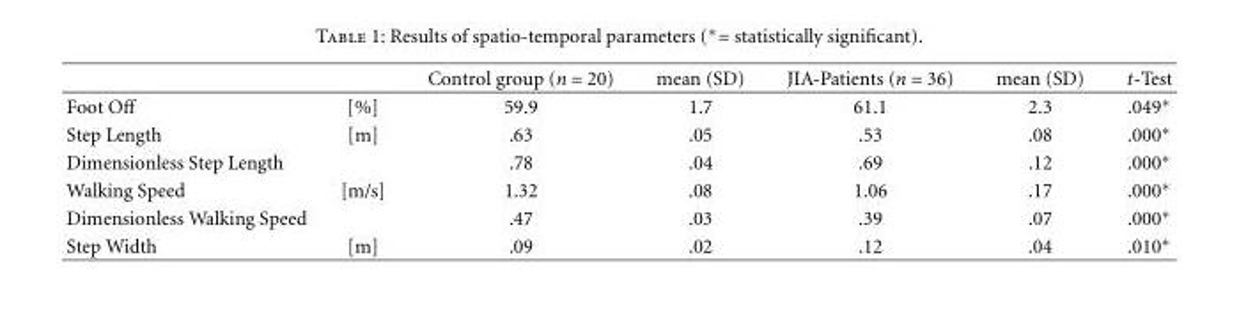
<table><thead><tr><td></td><td></td><td>Control group (n = 20)</td><td>mean (SD)</td><td>JIA-Patients (n = 36)</td><td>mean (SD)</td><td>t-Test</td></tr></thead><tbody><tr><td>Foot Off</td><td>[%]</td><td>59.9</td><td>1.7</td><td>61.1</td><td>2.3</td><td>.049∗</td></tr><tr><td>Step Length</td><td>[m]</td><td>.63</td><td>.05</td><td>.53</td><td>.08</td><td>.000∗</td></tr><tr><td>Dimensionless Step Length</td><td></td><td>.78</td><td>.04</td><td>.69</td><td>.12</td><td>.000∗</td></tr><tr><td>Walking Speed</td><td>[m/s]</td><td>1.32</td><td>.08</td><td>1.06</td><td>.17</td><td>.000∗</td></tr><tr><td>Dimensionless Walking Speed</td><td></td><td>.47</td><td>.03</td><td>.39</td><td>.07</td><td>.000∗</td></tr><tr><td>Step Width</td><td>[m]</td><td>.09</td><td>.02</td><td>.12</td><td>.04</td><td>.010∗</td></tr></tbody></table>